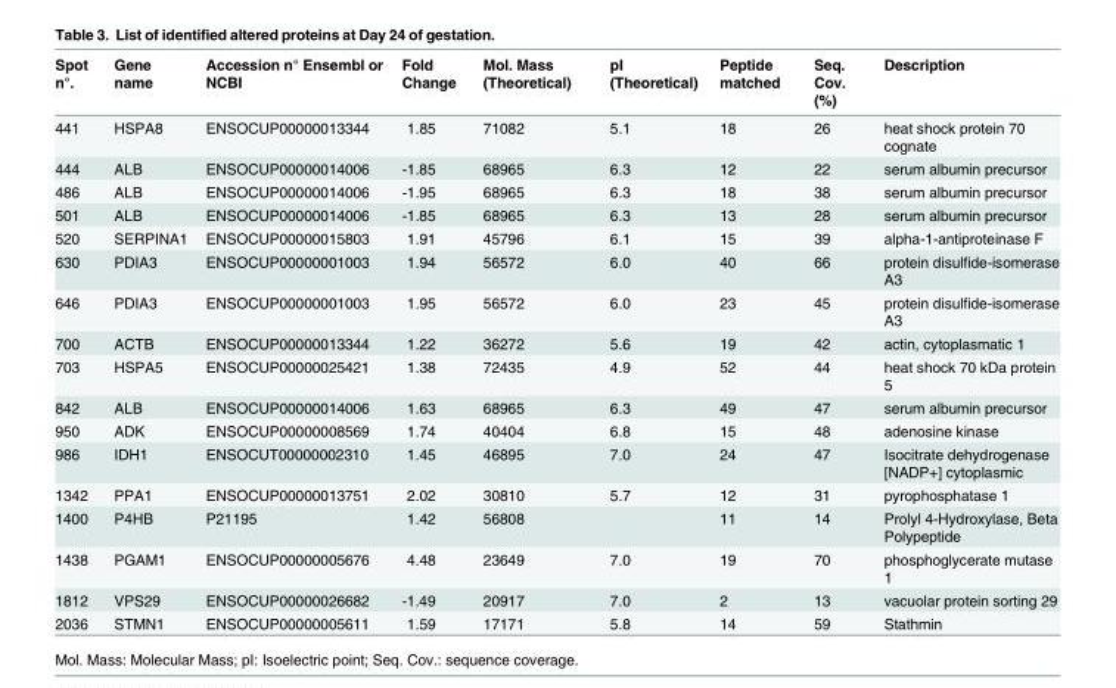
<table><thead><tr><td>Spot n°.</td><td>Gene name</td><td>Accession n° Ensembl or NCBI</td><td>Fold Change</td><td>Mol. Mass (Theoretical)</td><td>pI (Theoretical)</td><td>Peptide matched</td><td>Seq. Cov. (%)</td><td>Description</td></tr></thead><tbody><tr><td>441</td><td>HSPA8</td><td>ENSOCUP00000013344</td><td>1.85</td><td>71082</td><td>5.1</td><td>18</td><td>26</td><td>heat shock protein 70 cognate</td></tr><tr><td>444</td><td>ALB</td><td>ENSOCUP00000014006</td><td>-1.85</td><td>68965</td><td>6.3</td><td>12</td><td>22</td><td>serum albumin precursor</td></tr><tr><td>486</td><td>ALB</td><td>ENSOCUP00000014006</td><td>-1.95</td><td>68965</td><td>6.3</td><td>18</td><td>38</td><td>serum albumin precursor</td></tr><tr><td>501</td><td>ALB</td><td>ENSOCUP00000014006</td><td>-1.85</td><td>68965</td><td>6.3</td><td>13</td><td>28</td><td>serum albumin precursor</td></tr><tr><td>520</td><td>SERPINA1</td><td>ENSOCUP00000015803</td><td>1.91</td><td>45796</td><td>6.1</td><td>15</td><td>39</td><td>alpha-1-antiproteinase F</td></tr><tr><td>630</td><td>PDIA3</td><td>ENSOCUP00000001003</td><td>1.94</td><td>56572</td><td>6.0</td><td>40</td><td>66</td><td>protein disulfide-isomerase A3</td></tr><tr><td>646</td><td>PDIA3</td><td>ENSOCUP00000001003</td><td>1.95</td><td>56572</td><td>6.0</td><td>23</td><td>45</td><td>protein disulfide-isomerase A3</td></tr><tr><td>700</td><td>ACTB</td><td>ENSOCUP00000013344</td><td>1.22</td><td>36272</td><td>5.6</td><td>19</td><td>42</td><td>actin, cytoplasmatic 1</td></tr><tr><td>703</td><td>HSPA5</td><td>ENSOCUP00000025421</td><td>1.38</td><td>72435</td><td>4.9</td><td>52</td><td>44</td><td>heat shock 70 kDa protein 5</td></tr><tr><td>842</td><td>ALB</td><td>ENSOCUP00000014006</td><td>1.63</td><td>68965</td><td>6.3</td><td>49</td><td>47</td><td>serum albumin precursor</td></tr><tr><td>950</td><td>ADK</td><td>ENSOCUP00000008569</td><td>1.74</td><td>40404</td><td>6.8</td><td>15</td><td>48</td><td>adenosine kinase</td></tr><tr><td>986</td><td>IDH1</td><td>ENSOCUT00000002310</td><td>1.45</td><td>46895</td><td>7.0</td><td>24</td><td>47</td><td>Isocitrate dehydrogenase [NADP+] cytoplasmic</td></tr><tr><td>1342</td><td>PPA1</td><td>ENSOCUP00000013751</td><td>2.02</td><td>30810</td><td>5.7</td><td>12</td><td>31</td><td>pyrophosphatase 1</td></tr><tr><td>1400</td><td>P4HB</td><td>P21195</td><td>1.42</td><td>56808</td><td></td><td>11</td><td>14</td><td>Prolyl 4-Hydroxylase, Beta Polypeptide</td></tr><tr><td>1438</td><td>PGAM1</td><td>ENSOCUP00000005676</td><td>4.48</td><td>23649</td><td>7.0</td><td>19</td><td>70</td><td>phosphoglycerate mutase 1</td></tr><tr><td>1812</td><td>VPS29</td><td>ENSOCUP00000026682</td><td>-1.49</td><td>20917</td><td>7.0</td><td>2</td><td>13</td><td>vacuolar protein sorting 29</td></tr><tr><td>2036</td><td>STMN1</td><td>ENSOCUP00000005611</td><td>1.59</td><td>17171</td><td>5.8</td><td>14</td><td>59</td><td>Stathmin</td></tr></tbody></table>